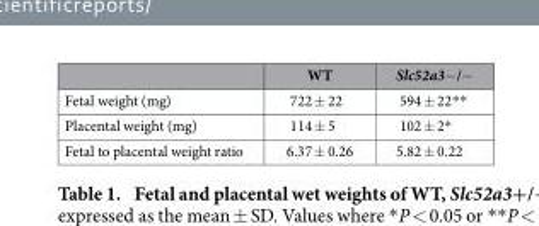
<table><thead><tr><td></td><td>WT</td><td>Slc52a3− /−</td></tr></thead><tbody><tr><td>Fetal weight (mg)</td><td>722 ± 22</td><td>594 ± 22* *</td></tr><tr><td>Placental weight (mg)</td><td>114 ± 5</td><td>102 ± 2*</td></tr><tr><td>Fetal to placental weight ratio</td><td>6.37 ± 0.26</td><td>5.82 ± 0.22</td></tr></tbody></table>